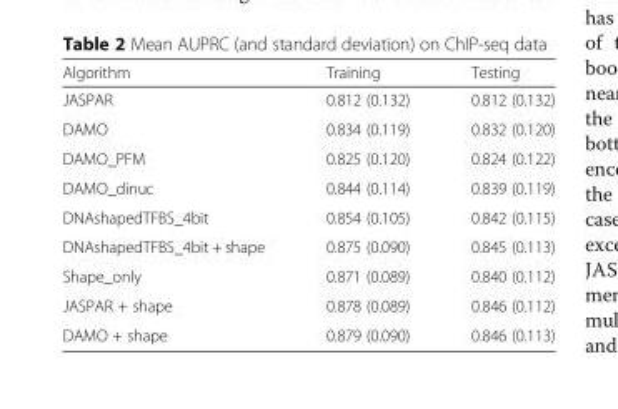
<table><thead><tr><td>Algorithm</td><td>Training</td><td>Testing</td></tr></thead><tbody><tr><td>JASPAR</td><td>0.812 (0.132)</td><td>0.812 (0.132)</td></tr><tr><td>DAMO</td><td>0.834 (0.119)</td><td>0.832 (0.120)</td></tr><tr><td>DAMO_PFM</td><td>0.825 (0.120)</td><td>0.824 (0.122)</td></tr><tr><td>DAMO_dinuc</td><td>0.844 (0.114)</td><td>0.839 (0.119)</td></tr><tr><td>DNAshapedTFBS_4bit</td><td>0.854 (0.105)</td><td>0.842 (0.115)</td></tr><tr><td>DNAshapedTFBS_4bit + shape</td><td>0.875 (0.090)</td><td>0.845 (0.113)</td></tr><tr><td>Shape_only</td><td>0.871 (0.089)</td><td>0.840 (0.112)</td></tr><tr><td>JASPAR + shape</td><td>0.878 (0.089)</td><td>0.846 (0.112)</td></tr><tr><td>DAMO + shape</td><td>0.879 (0.090)</td><td>0.846 (0.113)</td></tr></tbody></table>